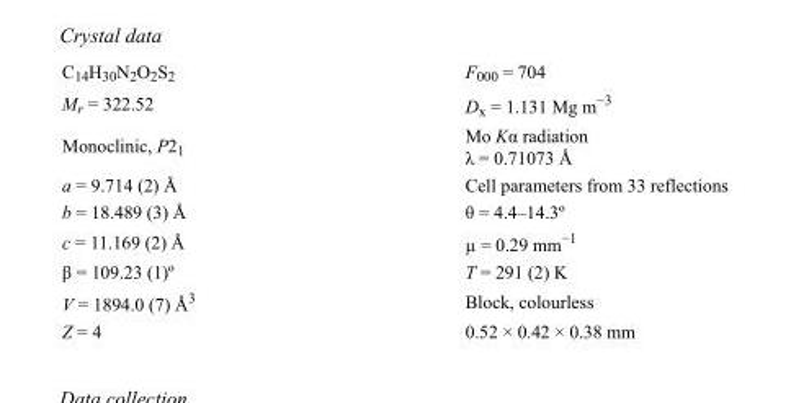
<table><tbody><tr><td>C<sub>14</sub>H<sub>30</sub>N<sub>2</sub>O<sub>2</sub>S<sub>2</sub></td><td>F000 = 704</td></tr><tr><td>M<sub>r</sub> = 322.52</td><td>D<sub>x</sub> = 1.131 Mg m<sup>−3</sup></td></tr><tr><td>Monoclinic, P2<sub>1</sub></td><td>Mo Kα radiation λ = 0.71073 Å</td></tr><tr><td>a = 9.714 (2) Å</td><td>Cell parameters from 33 reflections</td></tr><tr><td>b = 18.489 (3) Å</td><td>θ = 4.4–14.3º</td></tr><tr><td>c = 11.169 (2) Å</td><td>µ = 0.29 mm<sup>−1</sup></td></tr><tr><td>β = 109.23 (1)º</td><td>T = 291 (2) K</td></tr><tr><td>V = 1894.0 (7) Å<sup>3</sup></td><td>Block, colourless</td></tr><tr><td>Z = 4</td><td>0.52 × 0.42 × 0.38 mm</td></tr></tbody></table>